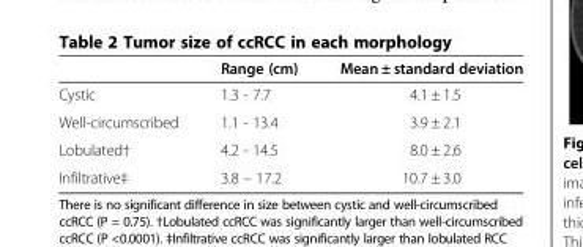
<table><thead><tr><td></td><td>Range (cm)</td><td>Mean ± standard deviation</td></tr></thead><tbody><tr><td>Cystic</td><td>1.3 - 7.7</td><td>4.1 ± 1.5</td></tr><tr><td>Well-circumscribed</td><td>1.1 - 13.4</td><td>3.9 ± 2.1</td></tr><tr><td>Lobulated†</td><td>4.2 - 14.5</td><td>8.0 ± 2.6</td></tr><tr><td>Infiltrative‡</td><td>3.8 – 17.2</td><td>10.7 ± 3.0</td></tr></tbody></table>